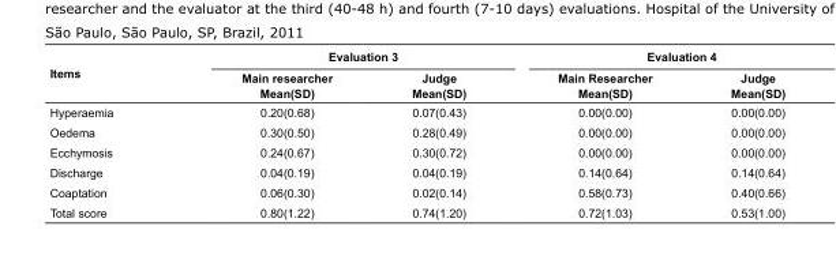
<table><thead><tr><td rowspan="2">Items</td><td colspan="2">Evaluation 3</td><td colspan="2">Evaluation 4</td></tr><tr><td>Main researcher Mean(SD)</td><td>Judge Mean(SD)</td><td>Main Researcher Mean(SD)</td><td>Judge Mean(SD)</td></tr></thead><tbody><tr><td>Hyperaemia</td><td>0.20(0.68)</td><td>0.07(0.43)</td><td>0.00(0.00)</td><td>0.00(0.00)</td></tr><tr><td>Oedema</td><td>0.30(0.50)</td><td>0.28(0.49)</td><td>0.00(0.00)</td><td>0.00(0.00)</td></tr><tr><td>Ecchymosis</td><td>0.24(0.67)</td><td>0.30(0.72)</td><td>0.00(0.00)</td><td>0.00(0.00)</td></tr><tr><td>Discharge</td><td>0.04(0.19)</td><td>0.04(0.19)</td><td>0.14(0.64)</td><td>0.14(0.64)</td></tr><tr><td>Coaptation</td><td>0.06(0.30)</td><td>0.02(0.14)</td><td>0.58(0.73)</td><td>0.40(0.66)</td></tr><tr><td>Total score</td><td>0.80(1.22)</td><td>0.74(1.20)</td><td>0.72(1.03)</td><td>0.53(1.00)</td></tr></tbody></table>